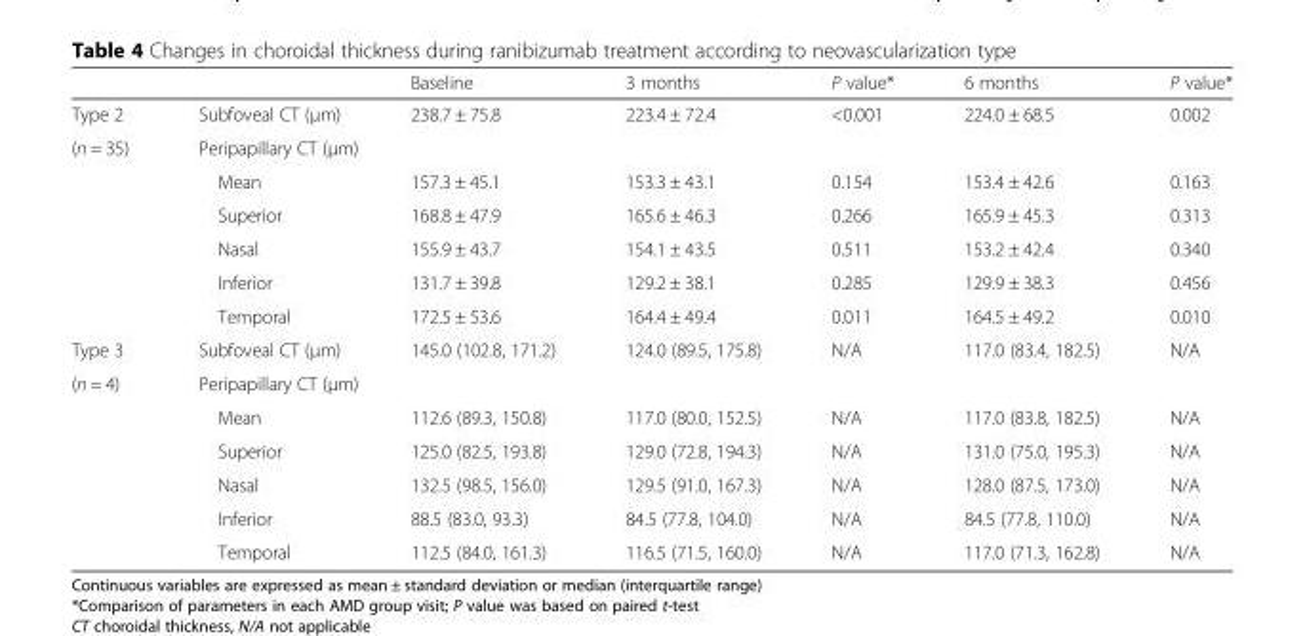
<table><thead><tr><td></td><td></td><td>Baseline</td><td>3 months</td><td>P value*</td><td>6 months</td><td>P value*</td></tr></thead><tbody><tr><td>Type 2</td><td>Subfoveal CT (μm)</td><td>238.7 ± 75.8</td><td>223.4 ± 72.4</td><td>&lt;0.001</td><td>224.0 ± 68.5</td><td>0.002</td></tr><tr><td rowspan="6">(n = 35)</td><td colspan="6">Peripapillary CT (μm)</td></tr><tr><td>Mean</td><td>157.3 ± 45.1</td><td>153.3 ± 43.1</td><td>0.154</td><td>153.4 ± 42.6</td><td>0.163</td></tr><tr><td>Superior</td><td>168.8 ± 47.9</td><td>165.6 ± 46.3</td><td>0.266</td><td>165.9 ± 45.3</td><td>0.313</td></tr><tr><td>Nasal</td><td>155.9 ± 43.7</td><td>154.1 ± 43.5</td><td>0.511</td><td>153.2 ± 42.4</td><td>0.340</td></tr><tr><td>Inferior</td><td>131.7 ± 39.8</td><td>129.2 ± 38.1</td><td>0.285</td><td>129.9 ± 38.3</td><td>0.456</td></tr><tr><td>Temporal</td><td>172.5 ± 53.6</td><td>164.4 ± 49.4</td><td>0.011</td><td>164.5 ± 49.2</td><td>0.010</td></tr><tr><td>Type 3</td><td>Subfoveal CT (μm)</td><td>145.0 (102.8, 171.2)</td><td>124.0 (89.5, 175.8)</td><td>N/A</td><td>117.0 (83.4, 182.5)</td><td>N/A</td></tr><tr><td rowspan="6">(n = 4)</td><td colspan="6">Peripapillary CT (μm)</td></tr><tr><td>Mean</td><td>112.6 (89.3, 150.8)</td><td>117.0 (80.0, 152.5)</td><td>N/A</td><td>117.0 (83.8, 182.5)</td><td>N/A</td></tr><tr><td>Superior</td><td>125.0 (82.5, 193.8)</td><td>129.0 (72.8, 194.3)</td><td>N/A</td><td>131.0 (75.0, 195.3)</td><td>N/A</td></tr><tr><td>Nasal</td><td>132.5 (98.5, 156.0)</td><td>129.5 (91.0, 167.3)</td><td>N/A</td><td>128.0 (87.5, 173.0)</td><td>N/A</td></tr><tr><td>Inferior</td><td>88.5 (83.0, 93.3)</td><td>84.5 (77.8, 104.0)</td><td>N/A</td><td>84.5 (77.8, 110.0)</td><td>N/A</td></tr><tr><td>Temporal</td><td>112.5 (84.0, 161.3)</td><td>116.5 (71.5, 160.0)</td><td>N/A</td><td>117.0 (71.3, 162.8)</td><td>N/A</td></tr></tbody></table>